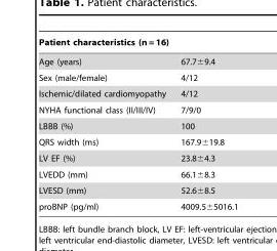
<table><thead><tr><td>Patient characteristics (n = 16)</td><td></td></tr></thead><tbody><tr><td>Age (years)</td><td>67.7±9.4</td></tr><tr><td>Sex (male/female)</td><td>4/12</td></tr><tr><td>Ischemic/dilated cardiomyopathy</td><td>4/12</td></tr><tr><td>NYHA functional class (II/III/IV)</td><td>7/9/0</td></tr><tr><td>LBBB (%)</td><td>100</td></tr><tr><td>QRS width (ms)</td><td>167.9±19.8</td></tr><tr><td>LV EF (%)</td><td>23.8±4.3</td></tr><tr><td>LVEDD (mm)</td><td>66.1±8.3</td></tr><tr><td>LVESD (mm)</td><td>52.6±8.5</td></tr><tr><td>proBNP (pg/ml)</td><td>4009.5±5016.1</td></tr></tbody></table>